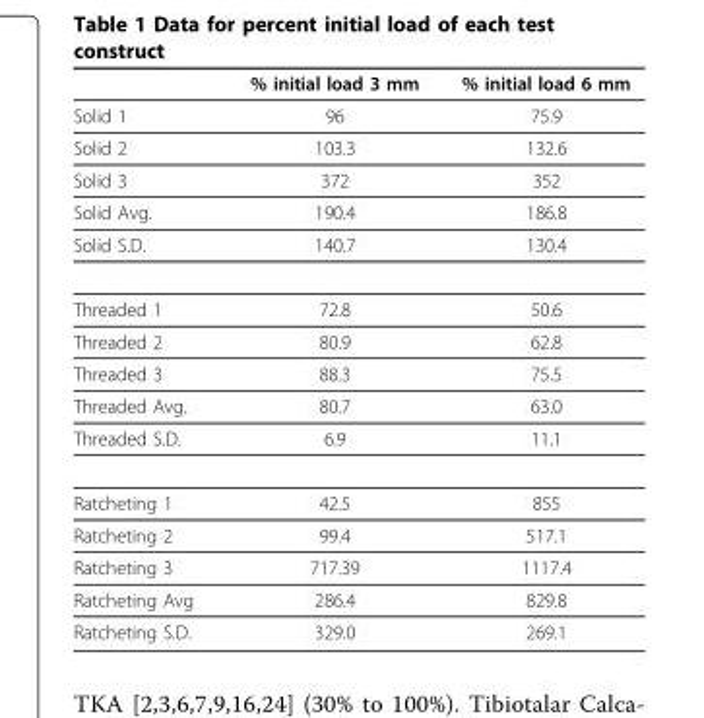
<table><thead><tr><td></td><td>% initial load 3 mm</td><td>% initial load 6 mm</td></tr></thead><tbody><tr><td>Solid 1</td><td>96</td><td>75.9</td></tr><tr><td>Solid 2</td><td>103.3</td><td>132.6</td></tr><tr><td>Solid 3</td><td>372</td><td>352</td></tr><tr><td>Solid Avg.</td><td>190.4</td><td>186.8</td></tr><tr><td>Solid S.D.</td><td>140.7</td><td>130.4</td></tr><tr><td>Threaded 1</td><td>72.8</td><td>50.6</td></tr><tr><td>Threaded 2</td><td>80.9</td><td>62.8</td></tr><tr><td>Threaded 3</td><td>88.3</td><td>75.5</td></tr><tr><td>Threaded Avg.</td><td>80.7</td><td>63.0</td></tr><tr><td>Threaded S.D.</td><td>6.9</td><td>11.1</td></tr><tr><td>Ratcheting 1</td><td>42.5</td><td>855</td></tr><tr><td>Ratcheting 2</td><td>99.4</td><td>517.1</td></tr><tr><td>Ratcheting 3</td><td>717.39</td><td>1117.4</td></tr><tr><td>Ratcheting Avg</td><td>286.4</td><td>829.8</td></tr><tr><td>Ratcheting S.D.</td><td>329.0</td><td>269.1</td></tr></tbody></table>